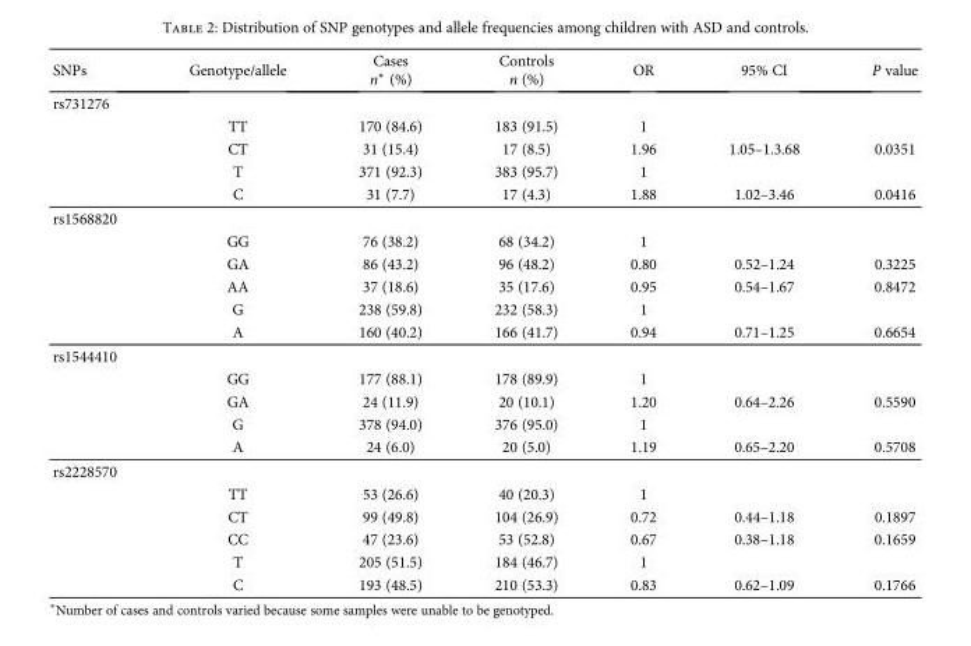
<table><thead><tr><td>SNPs</td><td>Genotype/allele</td><td>Cases n∗ (%)</td><td>Controls n (%)</td><td>OR</td><td>95% CI</td><td>P value</td></tr></thead><tbody><tr><td colspan="7">rs731276</td></tr><tr><td rowspan="4"></td><td>TT</td><td>170 (84.6)</td><td>183 (91.5)</td><td>1</td><td></td><td></td></tr><tr><td>CT</td><td>31 (15.4)</td><td>17 (8.5)</td><td>1.96</td><td>1.05–1.3.68</td><td>0.0351</td></tr><tr><td>T</td><td>371 (92.3)</td><td>383 (95.7)</td><td>1</td><td></td><td></td></tr><tr><td>C</td><td>31 (7.7)</td><td>17 (4.3)</td><td>1.88</td><td>1.02–3.46</td><td>0.0416</td></tr><tr><td colspan="7">rs1568820</td></tr><tr><td rowspan="5"></td><td>GG</td><td>76 (38.2)</td><td>68 (34.2)</td><td>1</td><td></td><td></td></tr><tr><td>GA</td><td>86 (43.2)</td><td>96 (48.2)</td><td>0.80</td><td>0.52–1.24</td><td>0.3225</td></tr><tr><td>AA</td><td>37 (18.6)</td><td>35 (17.6)</td><td>0.95</td><td>0.54–1.67</td><td>0.8472</td></tr><tr><td>G</td><td>238 (59.8)</td><td>232 (58.3)</td><td>1</td><td></td><td></td></tr><tr><td>A</td><td>160 (40.2)</td><td>166 (41.7)</td><td>0.94</td><td>0.71–1.25</td><td>0.6654</td></tr><tr><td colspan="7">rs1544410</td></tr><tr><td rowspan="4"></td><td>GG</td><td>177 (88.1)</td><td>178 (89.9)</td><td>1</td><td></td><td></td></tr><tr><td>GA</td><td>24 (11.9)</td><td>20 (10.1)</td><td>1.20</td><td>0.64–2.26</td><td>0.5590</td></tr><tr><td>G</td><td>378 (94.0)</td><td>376 (95.0)</td><td>1</td><td></td><td></td></tr><tr><td>A</td><td>24 (6.0)</td><td>20 (5.0)</td><td>1.19</td><td>0.65–2.20</td><td>0.5708</td></tr><tr><td colspan="7">rs2228570</td></tr><tr><td rowspan="5"></td><td>TT</td><td>53 (26.6)</td><td>40 (20.3)</td><td>1</td><td></td><td></td></tr><tr><td>CT</td><td>99 (49.8)</td><td>104 (26.9)</td><td>0.72</td><td>0.44–1.18</td><td>0.1897</td></tr><tr><td>CC</td><td>47 (23.6)</td><td>53 (52.8)</td><td>0.67</td><td>0.38–1.18</td><td>0.1659</td></tr><tr><td>T</td><td>205 (51.5)</td><td>184 (46.7)</td><td>1</td><td></td><td></td></tr><tr><td>C</td><td>193 (48.5)</td><td>210 (53.3)</td><td>0.83</td><td>0.62–1.09</td><td>0.1766</td></tr></tbody></table>